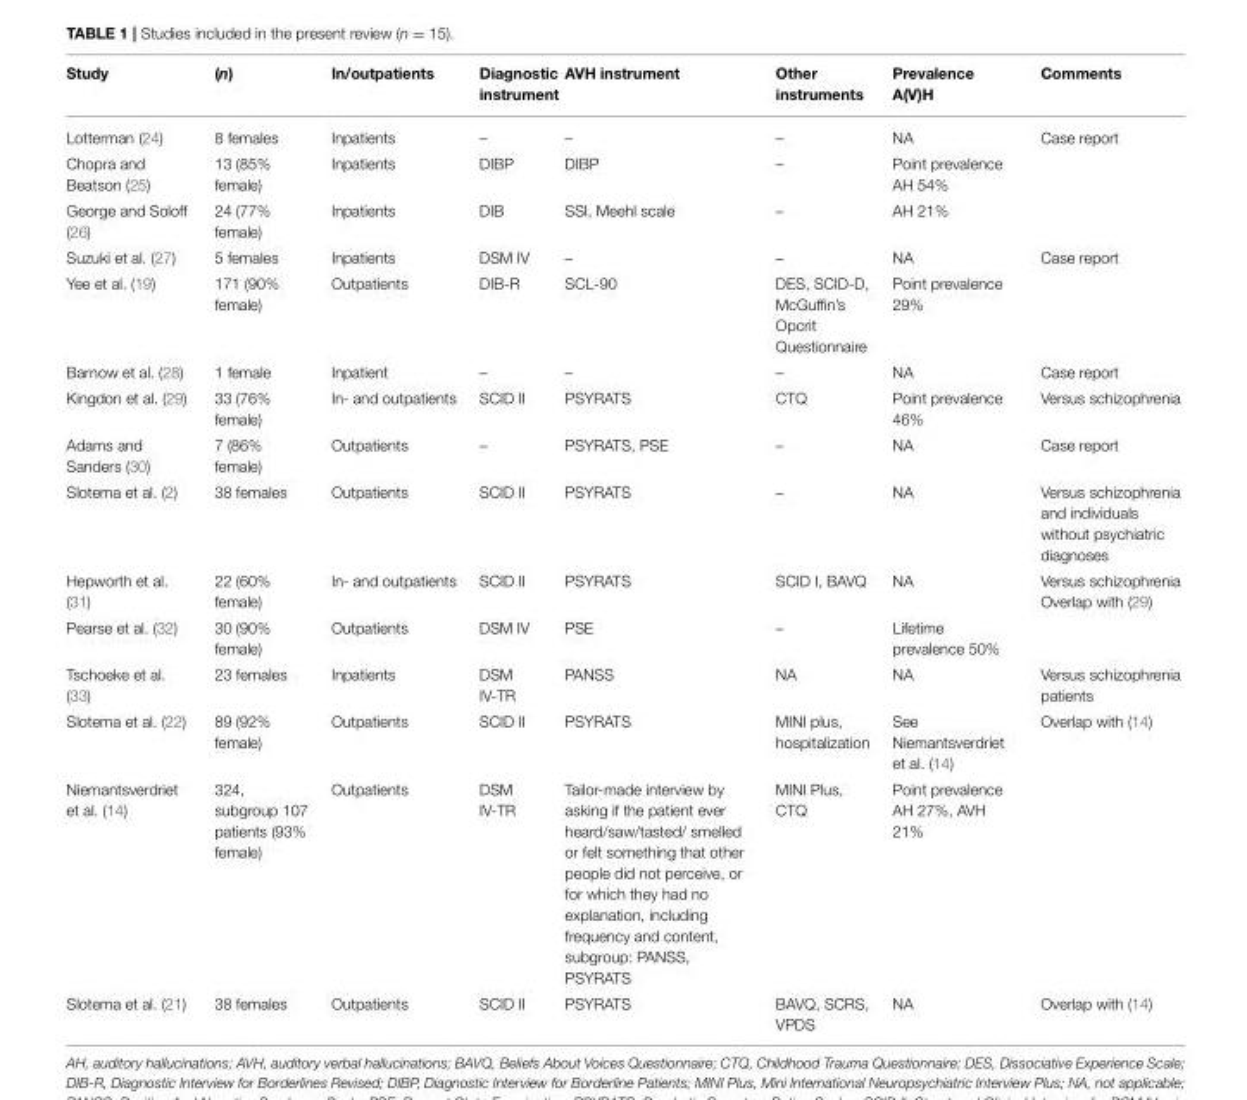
<table><thead><tr><td>Study</td><td>(n)</td><td>In/outpatients</td><td>Diagnostic instrument</td><td>AVH instrument</td><td>Other instruments</td><td>Prevalence A(V)H</td><td>Comments</td></tr></thead><tbody><tr><td>Lotterman (24)</td><td>8 females</td><td>Inpatients</td><td>–</td><td>–</td><td>–</td><td>NA</td><td>Case report</td></tr><tr><td>Chopra and Beatson (25)</td><td>13 (85% female)</td><td>Inpatients</td><td>DIBP</td><td>DIBP</td><td>–</td><td>Point prevalence AH 54%</td><td></td></tr><tr><td>George and Soloff (26)</td><td>24 (77% female)</td><td>Inpatients</td><td>DIB</td><td>SSI, Meehl scale</td><td>–</td><td>AH 21%</td><td></td></tr><tr><td>Suzuki et al. (27)</td><td>5 females</td><td>Inpatients</td><td>DSM IV</td><td>–</td><td>–</td><td>NA</td><td>Case report</td></tr><tr><td>Yee et al. (19)</td><td>171 (90% female)</td><td>Outpatients</td><td>DIB-R</td><td>SCL-90</td><td>DES, SCID-D, McGuffin’s Opcrit Questionnaire</td><td>Point prevalence 29%</td><td></td></tr><tr><td>Barnow et al. (28)</td><td>1 female</td><td>Inpatient</td><td>–</td><td>–</td><td>–</td><td>NA</td><td>Case report</td></tr><tr><td>Kingdon et al. (29)</td><td>33 (76% female)</td><td>In- and outpatients</td><td>SCID II</td><td>PSYRATS</td><td>CTQ</td><td>Point prevalence 46%</td><td>Versus schizophrenia</td></tr><tr><td>Adams and Sanders (30)</td><td>7 (86% female)</td><td>Outpatients</td><td>–</td><td>PSYRATS, PSE</td><td>–</td><td>NA</td><td>Case report</td></tr><tr><td>Slotema et al. (2)</td><td>38 females</td><td>Outpatients</td><td>SCID II</td><td>PSYRATS</td><td>–</td><td>NA</td><td>Versus schizophrenia and individuals without psychiatric diagnoses</td></tr><tr><td>Hepworth et al. (31)</td><td>22 (60% female)</td><td>In- and outpatients</td><td>SCID II</td><td>PSYRATS</td><td>SCID I, BAVQ</td><td>NA</td><td>Versus schizophrenia Overlap with (29)</td></tr><tr><td>Pearse et al. (32)</td><td>30 (90% female)</td><td>Outpatients</td><td>DSM IV</td><td>PSE</td><td>–</td><td>Lifetime prevalence 50%</td><td></td></tr><tr><td>Tschoeke et al. (33)</td><td>23 females</td><td>Inpatients</td><td>DSM IV-TR</td><td>PANSS</td><td>NA</td><td>NA</td><td>Versus schizophrenia patients</td></tr><tr><td>Slotema et al. (22)</td><td>89 (92% female)</td><td>Outpatients</td><td>SCID II</td><td>PSYRATS</td><td>MINI plus, hospitalization</td><td>See Niemantsverdriet et al. (14)</td><td>Overlap with (14)</td></tr><tr><td>Niemantsverdriet et al. (14)</td><td>324, subgroup 107 patients (93% female)</td><td>Outpatients</td><td>DSM IV-TR</td><td>Tailor-made interview by asking if the patient ever heard/saw/tasted/ smelled or felt something that other people did not perceive, or for which they had no explanation, including frequency and content, subgroup: PANSS, PSYRATS</td><td>MINI Plus, CTQ</td><td>Point prevalence AH 27%, AVH 21%</td><td></td></tr><tr><td>Slotema et al. (21)</td><td>38 females</td><td>Outpatients</td><td>SCID II</td><td>PSYRATS</td><td>BAVQ, SCRS, VPDS</td><td>NA</td><td>Overlap with (14)</td></tr></tbody></table>